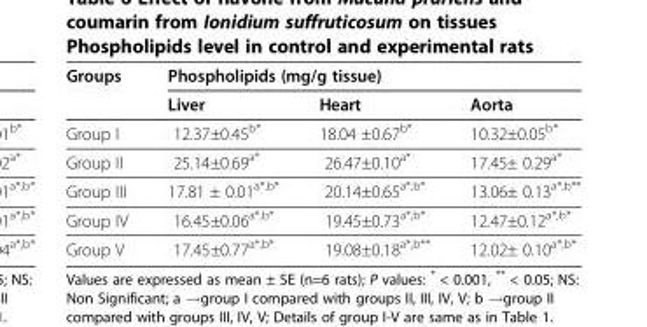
<table><thead><tr><td rowspan="2">Groups</td><td colspan="3">Phospholipids (mg/g tissue)</td></tr><tr><td>Liver</td><td>Heart</td><td>Aorta</td></tr></thead><tbody><tr><td>Group I</td><td>12.37±0.45<sup>b*</sup></td><td>18.04 ±0.67<sup>b*</sup></td><td>10.32±0.05<sup>b*</sup></td></tr><tr><td>Group II</td><td>25.14±0.69<sup>a*</sup></td><td>26.47±0.10<sup>a*</sup></td><td>17.45± 0.29<sup>a*</sup></td></tr><tr><td>Group III</td><td>17.81 ± 0.01<sup>a*,b*</sup></td><td>20.14±0.65<sup>a*,b*</sup></td><td>13.06± 0.13<sup>a*,b**</sup></td></tr><tr><td>Group IV</td><td>16.45±0.06<sup>a*,b*</sup></td><td>19.45±0.73<sup>a*,b*</sup></td><td>12.47±0.12<sup>a*,b*</sup></td></tr><tr><td>Group V</td><td>17.45±0.77<sup>a*,b*</sup></td><td>19.08±0.18<sup>a*,b**</sup></td><td>12.02± 0.10<sup>a*,b*</sup></td></tr></tbody></table>